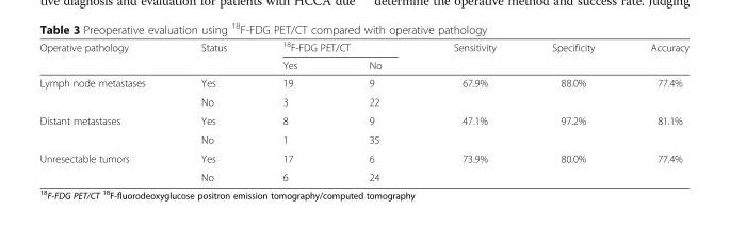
<table><thead><tr><td rowspan="2">Operative pathology</td><td rowspan="2">Status</td><td colspan="2"><sup>18</sup>F-FDG PET/CT</td><td rowspan="2">Sensitivity</td><td rowspan="2">Specificity</td><td rowspan="2">Accuracy</td></tr><tr><td>Yes</td><td>No</td></tr></thead><tbody><tr><td rowspan="2">Lymph node metastases</td><td>Yes</td><td>19</td><td>9</td><td rowspan="2">67.9%</td><td rowspan="2">88.0%</td><td rowspan="2">77.4%</td></tr><tr><td>No</td><td>3</td><td>22</td></tr><tr><td rowspan="2">Distant metastases</td><td>Yes</td><td>8</td><td>9</td><td rowspan="2">47.1%</td><td rowspan="2">97.2%</td><td rowspan="2">81.1%</td></tr><tr><td>No</td><td>1</td><td>35</td></tr><tr><td rowspan="2">Unresectable tumors</td><td>Yes</td><td>17</td><td>6</td><td rowspan="2">73.9%</td><td rowspan="2">80.0%</td><td rowspan="2">77.4%</td></tr><tr><td>No</td><td>6</td><td>24</td></tr></tbody></table>